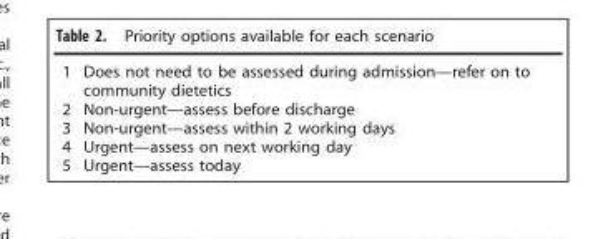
<table><tbody><tr><td>1</td><td>Does not need to be assessed during admission—refer on to community dietetics</td></tr><tr><td>2</td><td>Non-urgent—assess before discharge</td></tr><tr><td>3</td><td>Non-urgent—assess within 2 working days</td></tr><tr><td>4</td><td>Urgent—assess on next working day</td></tr><tr><td>5</td><td>Urgent—assess today</td></tr></tbody></table>